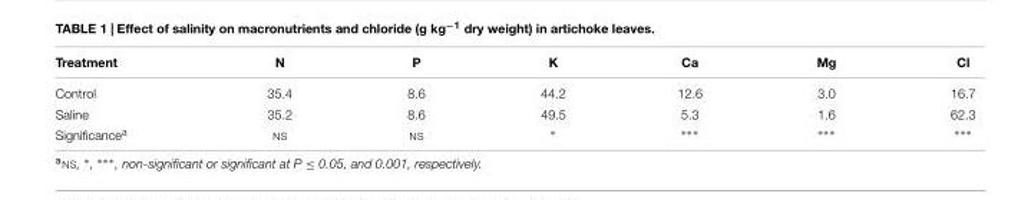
<table><thead><tr><td>Treatment</td><td>N</td><td>P</td><td>K</td><td>Ca</td><td>Mg</td><td>Cl</td></tr></thead><tbody><tr><td>Control</td><td>35.4</td><td>8.6</td><td>44.2</td><td>12.6</td><td>3.0</td><td>16.7</td></tr><tr><td>Saline</td><td>35.2</td><td>8.6</td><td>49.5</td><td>5.3</td><td>1.6</td><td>62.3</td></tr><tr><td>Significance<sup>a</sup></td><td>NS</td><td>NS</td><td>∗</td><td>∗∗∗</td><td>∗∗∗</td><td>∗∗∗</td></tr></tbody></table>